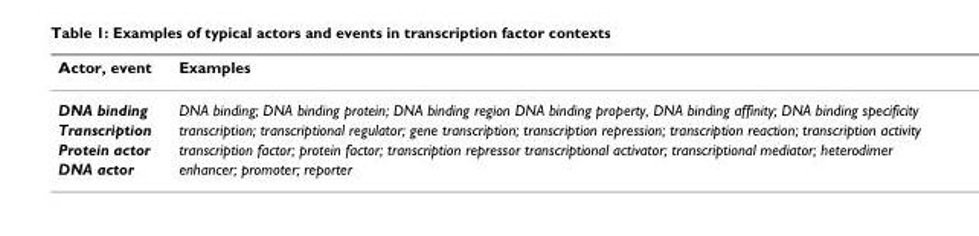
<table><thead><tr><td>Actor, event</td><td>Examples</td></tr></thead><tbody><tr><td>DNA binding</td><td>DNA binding; DNA binding protein; DNA binding region DNA binding property, DNA binding affinity; DNA binding specificity</td></tr><tr><td>Transcription</td><td>transcription; transcriptional regulator; gene transcription; transcription repression; transcription reaction; transcription activity</td></tr><tr><td>Protein actor</td><td>transcription factor; protein factor; transcription repressor transcriptional activator; transcriptional mediator; heterodimer</td></tr><tr><td>DNA actor</td><td>enhancer; promoter; reporter</td></tr></tbody></table>